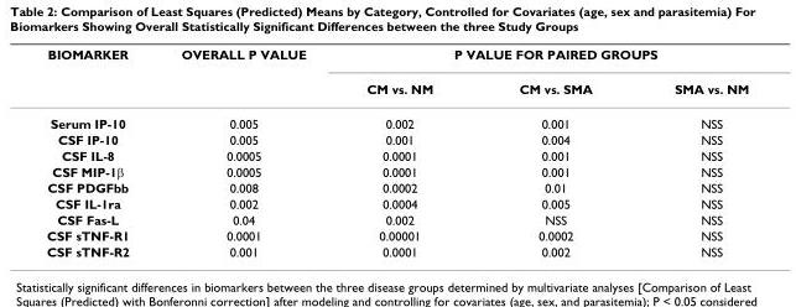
<table><thead><tr><td rowspan="2">BIOMARKER</td><td rowspan="2">OVERALL P VALUE</td><td colspan="3">P VALUE FOR PAIRED GROUPS</td></tr><tr><td>CM vs. NM</td><td>CM vs. SMA</td><td>SMA vs. NM</td></tr></thead><tbody><tr><td>Serum IP-10</td><td>0.005</td><td>0.002</td><td>0.001</td><td>NSS</td></tr><tr><td>CSF IP-10</td><td>0.005</td><td>0.001</td><td>0.004</td><td>NSS</td></tr><tr><td>CSF IL-8</td><td>0.0005</td><td>0.0001</td><td>0.001</td><td>NSS</td></tr><tr><td>CSF MIP-1β</td><td>0.0005</td><td>0.0001</td><td>0.001</td><td>NSS</td></tr><tr><td>CSF PDGFbb</td><td>0.008</td><td>0.0002</td><td>0.01</td><td>NSS</td></tr><tr><td>CSF IL-1ra</td><td>0.002</td><td>0.0004</td><td>0.005</td><td>NSS</td></tr><tr><td>CSF Fas-L</td><td>0.04</td><td>0.002</td><td>NSS</td><td>NSS</td></tr><tr><td>CSF sTNF-R1</td><td>0.0001</td><td>0.00001</td><td>0.0002</td><td>NSS</td></tr><tr><td>CSF sTNF-R2</td><td>0.001</td><td>0.0001</td><td>0.002</td><td>NSS</td></tr></tbody></table>